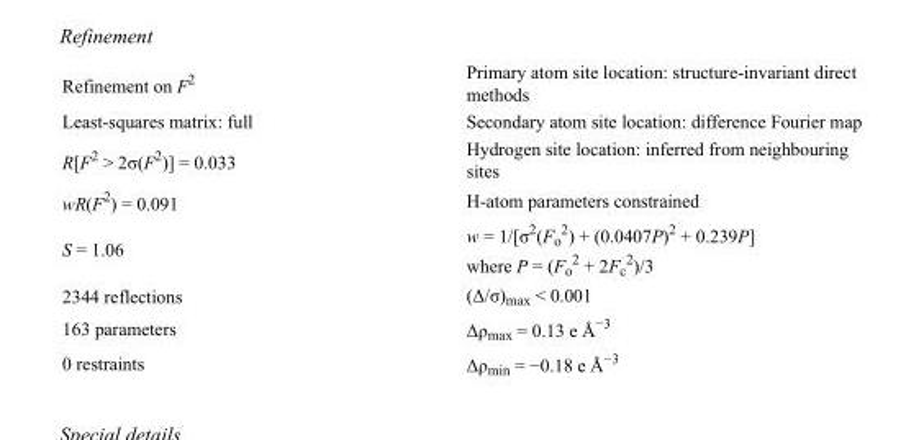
<table><tbody><tr><td>Refinement on F<sup>2</sup></td><td>Primary atom site location: structure-invariant direct methods</td></tr><tr><td>Least-squares matrix: full</td><td>Secondary atom site location: difference Fourier map</td></tr><tr><td>R[F<sup>2</sup> &gt; 2σ(F<sup>2</sup>)] = 0.033</td><td>Hydrogen site location: inferred from neighbouring sites</td></tr><tr><td>wR(F<sup>2</sup>) = 0.091</td><td>H-atom parameters constrained</td></tr><tr><td>S = 1.06</td><td>w = 1/[σ<sup>2</sup>(F<sub>o</sub> <sup>2</sup>) + (0.0407P)<sup>2</sup> + 0.239P] where P = (F<sub>o</sub> <sup>2</sup> + 2F<sub>c</sub> <sup>2</sup>)/3</td></tr><tr><td>2344 reflections</td><td>(Δ/σ)<sub>max</sub> &lt; 0.001</td></tr><tr><td>163 parameters</td><td>Δρ<sub>max</sub> = 0.13 e Å<sup>−3</sup></td></tr><tr><td>0 restraints</td><td>Δρ<sub>min</sub> = −0.18 e Å<sup>−3</sup></td></tr></tbody></table>